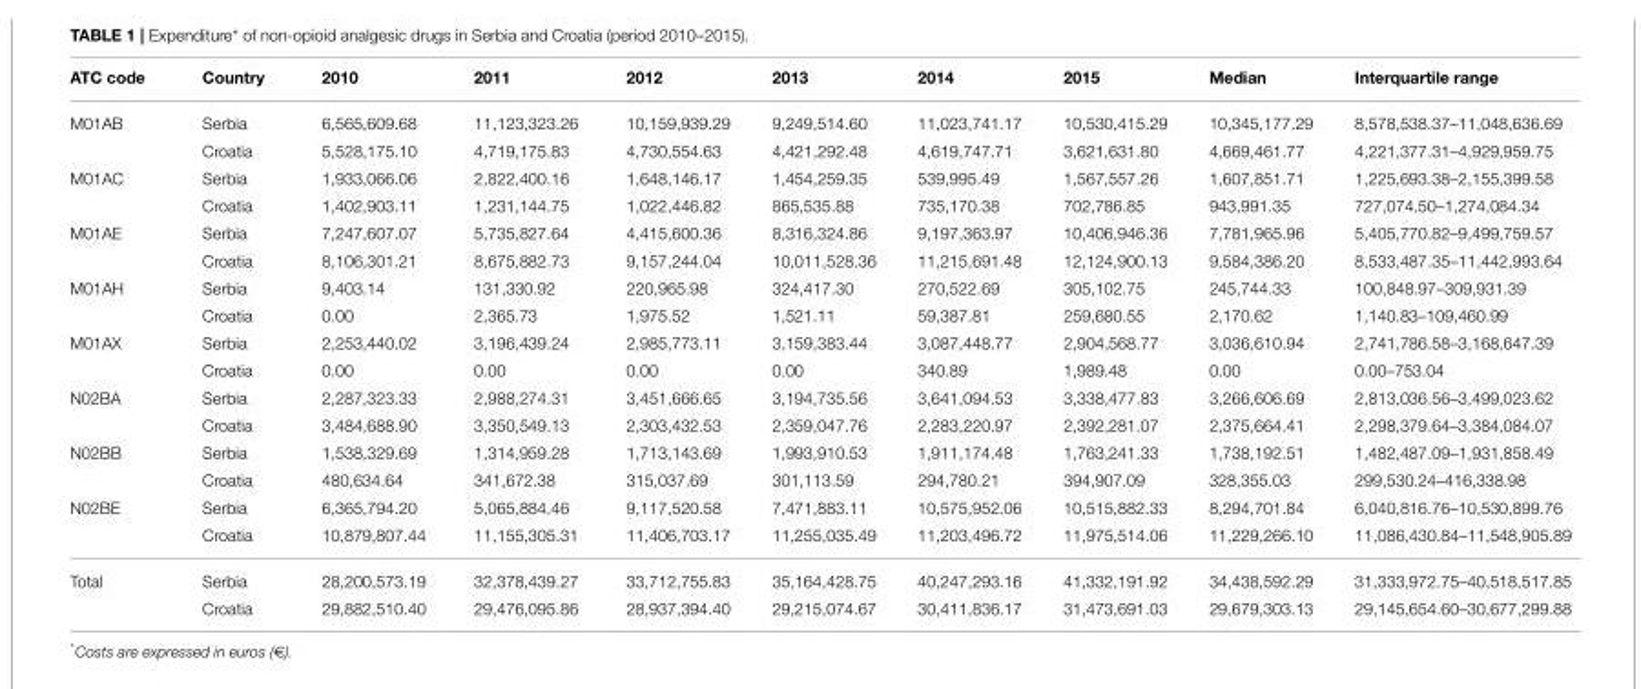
<table><thead><tr><td>ATC code</td><td>Country</td><td>2010</td><td>2011</td><td>2012</td><td>2013</td><td>2014</td><td>2015</td><td>Median</td><td>Interquartile range</td></tr></thead><tbody><tr><td rowspan="2">M01AB</td><td>Serbia</td><td>6,565,609.68</td><td>11,123,323.26</td><td>10,159,939.29</td><td>9,249,514.60</td><td>11,023,741.17</td><td>10,530,415.29</td><td>10,345,177.29</td><td>8,578,538.37–11,048,636.69</td></tr><tr><td>Croatia</td><td>5,528,175.10</td><td>4,719,175.83</td><td>4,730,554.63</td><td>4,421,292.48</td><td>4,619,747.71</td><td>3,621,631.80</td><td>4,669,461.77</td><td>4,221,377.31–4,929,959.75</td></tr><tr><td rowspan="2">M01AC</td><td>Serbia</td><td>1,933,066.06</td><td>2,822,400.16</td><td>1,648,146.17</td><td>1,454,259.35</td><td>539,995.49</td><td>1,567,557.26</td><td>1,607,851.71</td><td>1,225,693.38–2,155,399.58</td></tr><tr><td>Croatia</td><td>1,402,903.11</td><td>1,231,144.75</td><td>1,022,446.82</td><td>865,535.88</td><td>735,170.38</td><td>702,786.85</td><td>943,991.35</td><td>727,074.50–1,274,084.34</td></tr><tr><td rowspan="2">M01AE</td><td>Serbia</td><td>7,247,607.07</td><td>5,735,827.64</td><td>4,415,600.36</td><td>8,316,324.86</td><td>9,197,363.97</td><td>10,406,946.36</td><td>7,781,965.96</td><td>5,405,770.82–9,499,759.57</td></tr><tr><td>Croatia</td><td>8,106,301.21</td><td>8,675,882.73</td><td>9,157,244.04</td><td>10,011,528.36</td><td>11,215,691.48</td><td>12,124,900.13</td><td>9,584,386.20</td><td>8,533,487.35–11,442,993.64</td></tr><tr><td rowspan="2">M01AH</td><td>Serbia</td><td>9,403.14</td><td>131,330.92</td><td>220,965.98</td><td>324,417.30</td><td>270,522.69</td><td>305,102.75</td><td>245,744.33</td><td>100,848.97–309,931.39</td></tr><tr><td>Croatia</td><td>0.00</td><td>2,365.73</td><td>1,975.52</td><td>1,521.11</td><td>59,387.81</td><td>259,680.55</td><td>2,170.62</td><td>1,140.83–109,460.99</td></tr><tr><td rowspan="2">M01AX</td><td>Serbia</td><td>2,253,440.02</td><td>3,196,439.24</td><td>2,985,773.11</td><td>3,159,383.44</td><td>3,087,448.77</td><td>2,904,568.77</td><td>3,036,610.94</td><td>2,741,786.58–3,168,647.39</td></tr><tr><td>Croatia</td><td>0.00</td><td>0.00</td><td>0.00</td><td>0.00</td><td>340.89</td><td>1,989.48</td><td>0.00</td><td>0.00–753.04</td></tr><tr><td rowspan="2">N02BA</td><td>Serbia</td><td>2,287,323.33</td><td>2,988,274.31</td><td>3,451,666.65</td><td>3,194,735.56</td><td>3,641,094.53</td><td>3,338,477.83</td><td>3,266,606.69</td><td>2,813,036.56–3,499,023.62</td></tr><tr><td>Croatia</td><td>3,484,688.90</td><td>3,350,549.13</td><td>2,303,432.53</td><td>2,359,047.76</td><td>2,283,220.97</td><td>2,392,281.07</td><td>2,375,664.41</td><td>2,298,379.64–3,384,084.07</td></tr><tr><td rowspan="2">N02BB</td><td>Serbia</td><td>1,538,329.69</td><td>1,314,959.28</td><td>1,713,143.69</td><td>1,993,910.53</td><td>1,911,174.48</td><td>1,763,241.33</td><td>1,738,192.51</td><td>1,482,487.09–1,931,858.49</td></tr><tr><td>Croatia</td><td>480,634.64</td><td>341,672.38</td><td>315,037.69</td><td>301,113.59</td><td>294,780.21</td><td>394,907.09</td><td>328,355.03</td><td>299,530.24–416,338.98</td></tr><tr><td rowspan="2">N02BE</td><td>Serbia</td><td>6,365,794.20</td><td>5,065,884.46</td><td>9,117,520.58</td><td>7,471,883.11</td><td>10,575,952.06</td><td>10,515,882.33</td><td>8,294,701.84</td><td>6,040,816.76–10,530,899.76</td></tr><tr><td>Croatia</td><td>10,879,807.44</td><td>11,155,305.31</td><td>11,406,703.17</td><td>11,255,035.49</td><td>11,203,496.72</td><td>11,975,514.06</td><td>11,229,266.10</td><td>11,086,430.84–11,548,905.89</td></tr><tr><td rowspan="2">Total</td><td>Serbia</td><td>28,200,573.19</td><td>32,378,439.27</td><td>33,712,755.83</td><td>35,164,428.75</td><td>40,247,293.16</td><td>41,332,191.92</td><td>34,438,592.29</td><td>31,333,972.75–40,518,517.85</td></tr><tr><td>Croatia</td><td>29,882,510.40</td><td>29,476,095.86</td><td>28,937,394.40</td><td>29,215,074.67</td><td>30,411,836.17</td><td>31,473,691.03</td><td>29,679,303.13</td><td>29,145,654.60–30,677,299.88</td></tr></tbody></table>